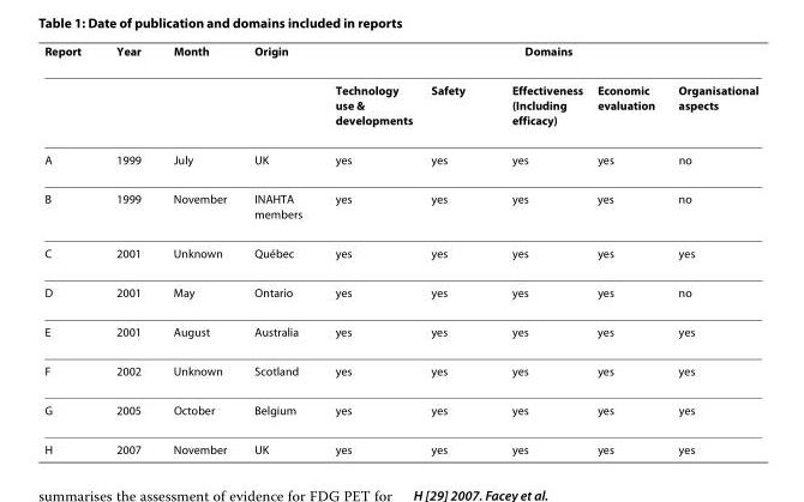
<table><thead><tr><td rowspan="2">Report</td><td rowspan="2">Year</td><td rowspan="2">Month</td><td rowspan="2">Origin</td><td colspan="5">Domains</td></tr><tr><td>Technology use &amp; developments</td><td>Safety</td><td>Effectiveness (Including efficacy)</td><td>Economic evaluation</td><td>Organisational aspects</td></tr></thead><tbody><tr><td>A</td><td>1999</td><td>July</td><td>UK</td><td>yes</td><td>yes</td><td>yes</td><td>yes</td><td>no</td></tr><tr><td>B</td><td>1999</td><td>November</td><td>INAHTA members</td><td>yes</td><td>yes</td><td>yes</td><td>yes</td><td>no</td></tr><tr><td>C</td><td>2001</td><td>Unknown</td><td>Québec</td><td>yes</td><td>yes</td><td>yes</td><td>yes</td><td>yes</td></tr><tr><td>D</td><td>2001</td><td>May</td><td>Ontario</td><td>yes</td><td>yes</td><td>yes</td><td>yes</td><td>no</td></tr><tr><td>E</td><td>2001</td><td>August</td><td>Australia</td><td>yes</td><td>yes</td><td>yes</td><td>yes</td><td>yes</td></tr><tr><td>F</td><td>2002</td><td>Unknown</td><td>Scotland</td><td>yes</td><td>yes</td><td>yes</td><td>yes</td><td>yes</td></tr><tr><td>G</td><td>2005</td><td>October</td><td>Belgium</td><td>yes</td><td>yes</td><td>yes</td><td>yes</td><td>yes</td></tr><tr><td>H</td><td>2007</td><td>November</td><td>UK</td><td>yes</td><td>yes</td><td>yes</td><td>yes</td><td>yes</td></tr></tbody></table>